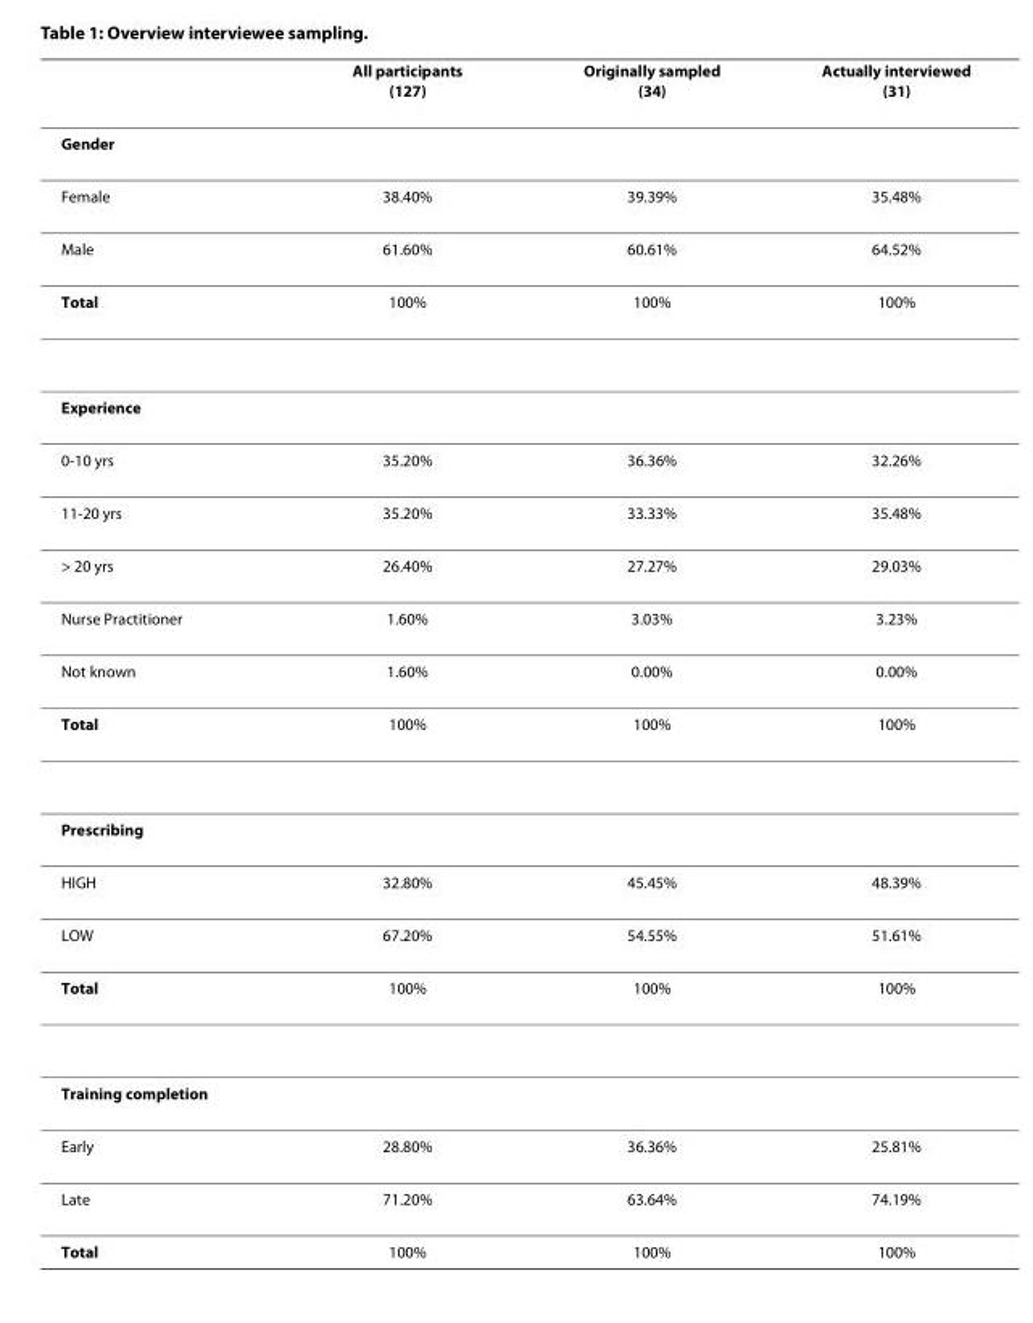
<table><thead><tr><td></td><td>All participants (127)</td><td>Originally sampled (34)</td><td>Actually interviewed (31)</td></tr></thead><tbody><tr><td colspan="4">Gender</td></tr><tr><td>Female</td><td>38.40%</td><td>39.39%</td><td>35.48%</td></tr><tr><td>Male</td><td>61.60%</td><td>60.61%</td><td>64.52%</td></tr><tr><td>Total</td><td>100%</td><td>100%</td><td>100%</td></tr><tr><td colspan="4">Experience</td></tr><tr><td>0-10 yrs</td><td>35.20%</td><td>36.36%</td><td>32.26%</td></tr><tr><td>11-20 yrs</td><td>35.20%</td><td>33.33%</td><td>35.48%</td></tr><tr><td>&gt; 20 yrs</td><td>26.40%</td><td>27.27%</td><td>29.03%</td></tr><tr><td>Nurse Practitioner</td><td>1.60%</td><td>3.03%</td><td>3.23%</td></tr><tr><td>Not known</td><td>1.60%</td><td>0.00%</td><td>0.00%</td></tr><tr><td>Total</td><td>100%</td><td>100%</td><td>100%</td></tr><tr><td colspan="4">Prescribing</td></tr><tr><td>HIGH</td><td>32.80%</td><td>45.45%</td><td>48.39%</td></tr><tr><td>LOW</td><td>67.20%</td><td>54.55%</td><td>51.61%</td></tr><tr><td>Total</td><td>100%</td><td>100%</td><td>100%</td></tr><tr><td colspan="4">Training completion</td></tr><tr><td>Early</td><td>28.80%</td><td>36.36%</td><td>25.81%</td></tr><tr><td>Late</td><td>71.20%</td><td>63.64%</td><td>74.19%</td></tr><tr><td>Total</td><td>100%</td><td>100%</td><td>100%</td></tr></tbody></table>